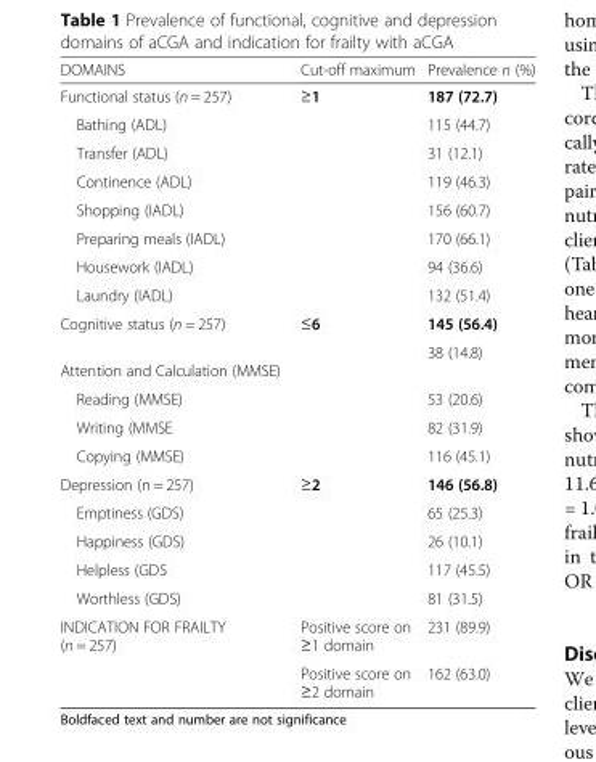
<table><thead><tr><td>DOMAINS</td><td>Cut-off maximum</td><td>Prevalence n (%)</td></tr></thead><tbody><tr><td>Functional status (n = 257)</td><td>≥1</td><td>187 (72.7)</td></tr><tr><td>Bathing (ADL)</td><td></td><td>115 (44.7)</td></tr><tr><td>Transfer (ADL)</td><td></td><td>31 (12.1)</td></tr><tr><td>Continence (ADL)</td><td></td><td>119 (46.3)</td></tr><tr><td>Shopping (IADL)</td><td></td><td>156 (60.7)</td></tr><tr><td>Preparing meals (IADL)</td><td></td><td>170 (66.1)</td></tr><tr><td>Housework (IADL)</td><td></td><td>94 (36.6)</td></tr><tr><td>Laundry (IADL)</td><td></td><td>132 (51.4)</td></tr><tr><td>Cognitive status (n = 257)</td><td>≤6</td><td>145 (56.4)</td></tr><tr><td>Attention and Calculation (MMSE)</td><td></td><td>38 (14.8)</td></tr><tr><td>Reading (MMSE)</td><td></td><td>53 (20.6)</td></tr><tr><td>Writing (MMSE</td><td></td><td>82 (31.9)</td></tr><tr><td>Copying (MMSE)</td><td></td><td>116 (45.1)</td></tr><tr><td>Depression (n = 257)</td><td>≥2</td><td>146 (56.8)</td></tr><tr><td>Emptiness (GDS)</td><td></td><td>65 (25.3)</td></tr><tr><td>Happiness (GDS)</td><td></td><td>26 (10.1)</td></tr><tr><td>Helpless (GDS</td><td></td><td>117 (45.5)</td></tr><tr><td>Worthless (GDS)</td><td></td><td>81 (31.5)</td></tr><tr><td rowspan="2">INDICATION FOR FRAILTY (n = 257)</td><td>Positive score on ≥1 domain</td><td>231 (89.9)</td></tr><tr><td>Positive score on ≥2 domain</td><td>162 (63.0)</td></tr></tbody></table>